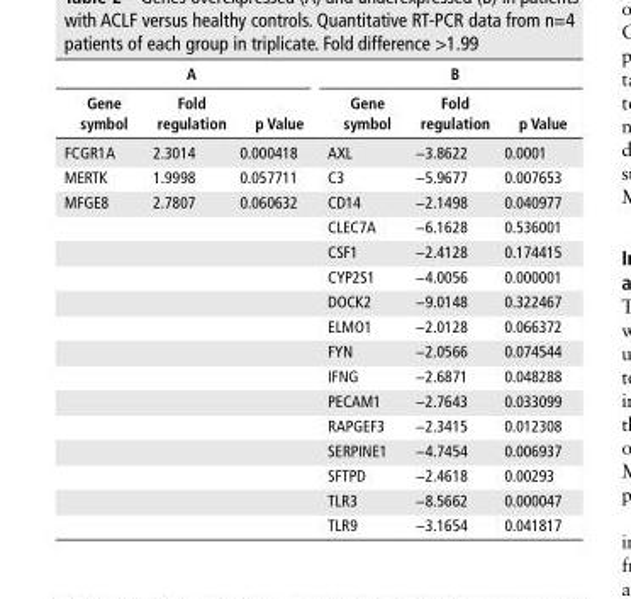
<table><thead><tr><td colspan="3">A</td><td colspan="3">b</td></tr><tr><td>Gene symbol</td><td>Fold regulation</td><td>p Value</td><td>Gene symbol</td><td>Fold regulation</td><td>p Value</td></tr></thead><tbody><tr><td>FCGR1A</td><td>2.3014</td><td>0.000418</td><td>AXL</td><td>−3.8622</td><td>0.0001</td></tr><tr><td>MERTK</td><td>1.9998</td><td>0.057711</td><td>C3</td><td>−5.9677</td><td>0.007653</td></tr><tr><td rowspan="14">MFGE8</td><td>2.7807</td><td>0.060632</td><td>CD14</td><td>−2.1498</td><td>0.040977</td></tr><tr><td></td><td></td><td>CLEC7A</td><td>−6.1628</td><td>0.536001</td></tr><tr><td></td><td></td><td>CSF1</td><td>−2.4128</td><td>0.174415</td></tr><tr><td></td><td></td><td>CYP2S1</td><td>−4.0056</td><td>0.000001</td></tr><tr><td></td><td></td><td>DOCK2</td><td>−9.0148</td><td>0.322467</td></tr><tr><td></td><td></td><td>ELMO1</td><td>−2.0128</td><td>0.066372</td></tr><tr><td></td><td></td><td>FYN</td><td>−2.0566</td><td>0.074544</td></tr><tr><td></td><td></td><td>IFNG</td><td>−2.6871</td><td>0.048288</td></tr><tr><td></td><td></td><td>PECAM1</td><td>−2.7643</td><td>0.033099</td></tr><tr><td></td><td></td><td>RAPGEF3</td><td>−2.3415</td><td>0.012308</td></tr><tr><td></td><td></td><td>SERPINE1</td><td>−4.7454</td><td>0.006937</td></tr><tr><td></td><td></td><td>SFTPD</td><td>−2.4618</td><td>0.00293</td></tr><tr><td></td><td></td><td>TLR3</td><td>−8.5662</td><td>0.000047</td></tr><tr><td></td><td></td><td>TLR9</td><td>−3.1654</td><td>0.041817</td></tr></tbody></table>